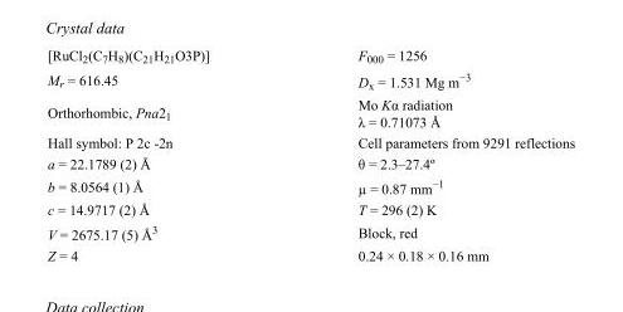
<table><tbody><tr><td>[RuCl<sub>2</sub>(C<sub>7</sub>H<sub>8</sub>)(C<sub>21</sub>H<sub>21</sub>O3P)]</td><td>F<sub>000</sub> = 1256</td></tr><tr><td>M<sub>r</sub> = 616.45</td><td>D<sub>x</sub> = 1.531 Mg m<sup>−3</sup></td></tr><tr><td>Orthorhombic, Pna2<sub>1</sub></td><td>Mo Kα radiation λ = 0.71073 Å</td></tr><tr><td>Hall symbol: P 2c -2n</td><td>Cell parameters from 9291 reflections</td></tr><tr><td>a = 22.1789 (2) Å</td><td>θ = 2.3–27.4º</td></tr><tr><td>b = 8.0564 (1) Å</td><td>µ = 0.87 mm<sup>−1</sup></td></tr><tr><td>c = 14.9717 (2) Å</td><td>T = 296 (2) K</td></tr><tr><td>V = 2675.17 (5) Å<sup>3</sup></td><td>Block, red</td></tr><tr><td>Z = 4</td><td>0.24 × 0.18 × 0.16 mm</td></tr></tbody></table>